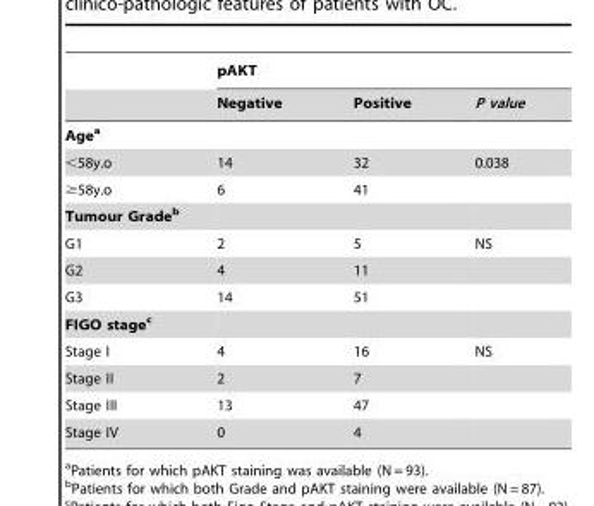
<table><thead><tr><td rowspan="2"></td><td colspan="3">pAKT</td></tr><tr><td>Negative</td><td>Positive</td><td>P value</td></tr></thead><tbody><tr><td colspan="4">Agea</td></tr><tr><td>&lt;58y.o</td><td>14</td><td>32</td><td>0.038</td></tr><tr><td>≥58y.o</td><td>6</td><td>41</td><td></td></tr><tr><td colspan="4">Tumour Gradeb</td></tr><tr><td>G1</td><td>2</td><td>5</td><td>NS</td></tr><tr><td>G2</td><td>4</td><td>11</td><td></td></tr><tr><td>G3</td><td>14</td><td>51</td><td></td></tr><tr><td colspan="4">FIGO stagec</td></tr><tr><td>Stage I</td><td>4</td><td>16</td><td>NS</td></tr><tr><td>Stage II</td><td>2</td><td>7</td><td></td></tr><tr><td>Stage III</td><td>13</td><td>47</td><td></td></tr><tr><td>Stage IV</td><td>0</td><td>4</td><td></td></tr></tbody></table>